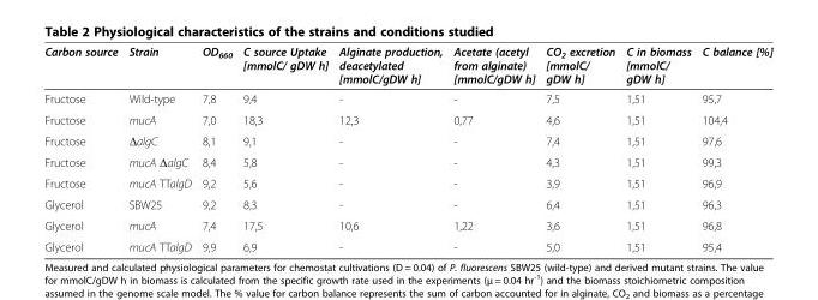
<table><thead><tr><td>Carbon source</td><td>Strain</td><td>OD<sub>660</sub></td><td>C source Uptake [mmolC/ gDW h]</td><td>Alginate production, deacetylated [mmolC/gDW h]</td><td>Acetate (acetyl from alginate) [mmolC/gDW h]</td><td>CO<sub>2</sub> excretion [mmolC/ gDW h]</td><td>C in biomass [mmolC/ gDW h]</td><td>C balance [%]</td></tr></thead><tbody><tr><td>Fructose</td><td>Wild-type</td><td>7,8</td><td>9,4</td><td>-</td><td>-</td><td>7,5</td><td>1,51</td><td>95,7</td></tr><tr><td>Fructose</td><td>mucA</td><td>7,0</td><td>18,3</td><td>12,3</td><td>0,77</td><td>4,6</td><td>1,51</td><td>104,4</td></tr><tr><td>Fructose</td><td>ΔalgC</td><td>8,1</td><td>9,1</td><td>-</td><td>-</td><td>7,4</td><td>1,51</td><td>97,6</td></tr><tr><td>Fructose</td><td>mucA ΔalgC</td><td>8,4</td><td>5,8</td><td>-</td><td>-</td><td>4,3</td><td>1,51</td><td>99,3</td></tr><tr><td>Fructose</td><td>mucA TTalgD</td><td>9,2</td><td>5,6</td><td>-</td><td>-</td><td>3,9</td><td>1,51</td><td>96,9</td></tr><tr><td>Glycerol</td><td>SBW25</td><td>9,2</td><td>8,3</td><td>-</td><td>-</td><td>6,4</td><td>1,51</td><td>96,3</td></tr><tr><td>Glycerol</td><td>mucA</td><td>7,4</td><td>17,5</td><td>10,6</td><td>1,22</td><td>3,6</td><td>1,51</td><td>96,8</td></tr><tr><td>Glycerol</td><td>mucA TTalgD</td><td>9,9</td><td>6,9</td><td>-</td><td>-</td><td>5,0</td><td>1,51</td><td>95,4</td></tr></tbody></table>